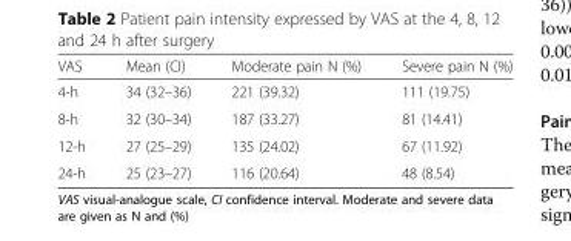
<table><thead><tr><td>VAS</td><td>Mean (CI)</td><td>Moderate pain N (%)</td><td>Severe pain N (%)</td></tr></thead><tbody><tr><td>4-h</td><td>34 (32–36)</td><td>221 (39.32)</td><td>111 (19.75)</td></tr><tr><td>8-h</td><td>32 (30–34)</td><td>187 (33.27)</td><td>81 (14.41)</td></tr><tr><td>12-h</td><td>27 (25–29)</td><td>135 (24.02)</td><td>67 (11.92)</td></tr><tr><td>24-h</td><td>25 (23–27)</td><td>116 (20.64)</td><td>48 (8.54)</td></tr></tbody></table>